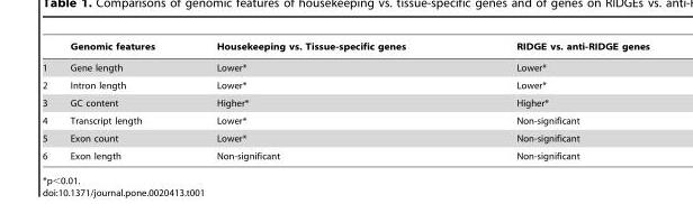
<table><thead><tr><td></td><td>Genomic features</td><td>Housekeeping vs. Tissue-specific genes</td><td>RIDGE vs. anti-RIDGE genes</td></tr></thead><tbody><tr><td>1</td><td>Gene length</td><td>Lower*</td><td>Lower*</td></tr><tr><td>2</td><td>Intron length</td><td>Lower*</td><td>Lower*</td></tr><tr><td>3</td><td>GC content</td><td>Higher*</td><td>Higher*</td></tr><tr><td>4</td><td>Transcript length</td><td>Lower*</td><td>Non-significant</td></tr><tr><td>5</td><td>Exon count</td><td>Lower*</td><td>Non-significant</td></tr><tr><td>6</td><td>Exon length</td><td>Non-significant</td><td>Non-significant</td></tr></tbody></table>